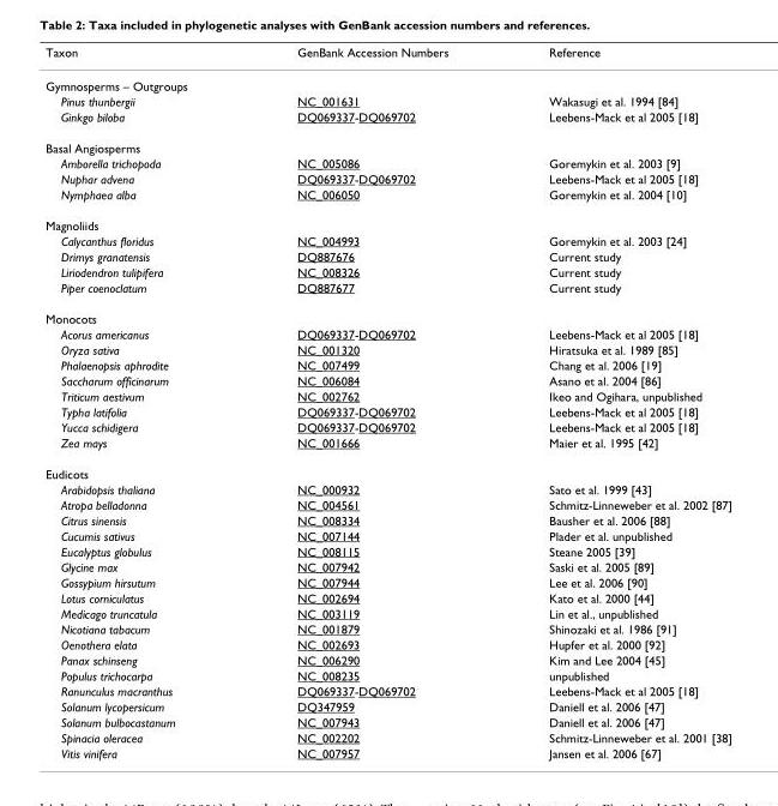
<table><thead><tr><td>Taxon</td><td>GenBank Accession Numbers</td><td>Reference</td></tr></thead><tbody><tr><td colspan="3">Gymnosperms – Outgroups</td></tr><tr><td>Pinus thunbergii</td><td>NC_001631</td><td>Wakasugi et al. 1994 [84]</td></tr><tr><td>Ginkgo biloba</td><td>DQ069337-DQ069702</td><td>Leebens-Mack et al 2005 [18]</td></tr><tr><td colspan="3">Basal Angiosperms</td></tr><tr><td>Amborella trichopoda</td><td>NC_005086</td><td>Goremykin et al. 2003 [9]</td></tr><tr><td>Nuphar advena</td><td>DQ069337-DQ069702</td><td>Leebens-Mack et al 2005 [18]</td></tr><tr><td>Nymphaea alba</td><td>NC_006050</td><td>Goremykin et al. 2004 [10]</td></tr><tr><td colspan="3">Magnoliids</td></tr><tr><td>Calycanthus floridus</td><td>NC_004993</td><td>Goremykin et al. 2003 [24]</td></tr><tr><td>Drimys granatensis</td><td>DQ887676</td><td>Current study</td></tr><tr><td>Liriodendron tulipifera</td><td>NC_008326</td><td>Current study</td></tr><tr><td>Piper coenoclatum</td><td>DQ887677</td><td>Current study</td></tr><tr><td colspan="3">Monocots</td></tr><tr><td>Acorus americanus</td><td>DQ069337-DQ069702</td><td>Leebens-Mack et al 2005 [18]</td></tr><tr><td>Oryza sativa</td><td>NC_001320</td><td>Hiratsuka et al. 1989 [85]</td></tr><tr><td>Phalaenopsis aphrodite</td><td>NC_007499</td><td>Chang et al. 2006 [19]</td></tr><tr><td>Saccharum officinarum</td><td>NC_006084</td><td>Asano et al. 2004 [86]</td></tr><tr><td>Triticum aestivum</td><td>NC_002762</td><td>Ikeo and Ogihara, unpublished</td></tr><tr><td>Typha latifolia</td><td>DQ069337-DQ069702</td><td>Leebens-Mack et al 2005 [18]</td></tr><tr><td>Yucca schidigera</td><td>DQ069337-DQ069702</td><td>Leebens-Mack et al 2005 [18]</td></tr><tr><td>Zea mays</td><td>NC_001666</td><td>Maier et al. 1995 [42]</td></tr><tr><td colspan="3">Eudicots</td></tr><tr><td>Arabidopsis thaliana</td><td>NC_000932</td><td>Sato et al. 1999 [43]</td></tr><tr><td>Atropa belladonna</td><td>NC_004561</td><td>Schmitz-Linneweber et al. 2002 [87]</td></tr><tr><td>Citrus sinensis</td><td>NC_008334</td><td>Bausher et al. 2006 [88]</td></tr><tr><td>Cucumis sativus</td><td>NC_007144</td><td>Plader et al. unpublished</td></tr><tr><td>Eucalyptus globulus</td><td>NC_008115</td><td>Steane 2005 [39]</td></tr><tr><td>Glycine max</td><td>NC_007942</td><td>Saski et al. 2005 [89]</td></tr><tr><td>Gossypium hirsutum</td><td>NC_007944</td><td>Lee et al. 2006 [90]</td></tr><tr><td>Lotus corniculatus</td><td>NC_002694</td><td>Kato et al. 2000 [44]</td></tr><tr><td>Medicago truncatula</td><td>NC_003119</td><td>Lin et al., unpublished</td></tr><tr><td>Nicotiana tabacum</td><td>NC_001879</td><td>Shinozaki et al. 1986 [91]</td></tr><tr><td>Oenothera elata</td><td>NC_002693</td><td>Hupfer et al. 2000 [92]</td></tr><tr><td>Panax schinseng</td><td>NC_006290</td><td>Kim and Lee 2004 [45]</td></tr><tr><td>Populus trichocarpa</td><td>NC_008235</td><td>unpublished</td></tr><tr><td>Ranunculus macranthus</td><td>DQ069337-DQ069702</td><td>Leebens-Mack et al 2005 [18]</td></tr><tr><td>Solanum lycopersicum</td><td>DQ347959</td><td>Daniell et al. 2006 [47]</td></tr><tr><td>Solanum bulbocastanum</td><td>NC_007943</td><td>Daniell et al. 2006 [47]</td></tr><tr><td>Spinacia oleracea</td><td>NC_002202</td><td>Schmitz-Linneweber et al. 2001 [38]</td></tr><tr><td>Vitis vinifera</td><td>NC_007957</td><td>Jansen et al. 2006 [67]</td></tr></tbody></table>